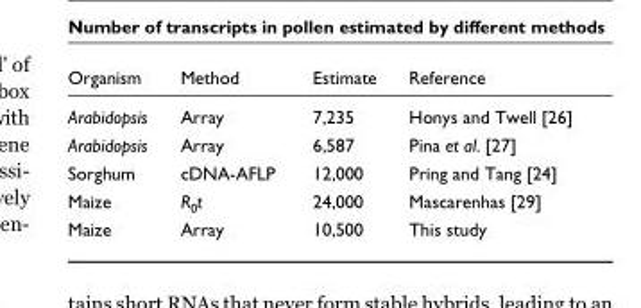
<table><thead><tr><td>Organism</td><td>Method</td><td>Estimate</td><td>Reference</td></tr></thead><tbody><tr><td>Arabidopsis</td><td>Array</td><td>7,235</td><td>Honys and Twell [26]</td></tr><tr><td>Arabidopsis</td><td>Array</td><td>6,587</td><td>Pina et al. [27]</td></tr><tr><td>Sorghum</td><td>cDNA-AFLP</td><td>12,000</td><td>Pring and Tang [24]</td></tr><tr><td>Maize</td><td>R<sub>0</sub>t</td><td>24,000</td><td>Mascarenhas [29]</td></tr><tr><td>Maize</td><td>Array</td><td>10,500</td><td>This study</td></tr></tbody></table>